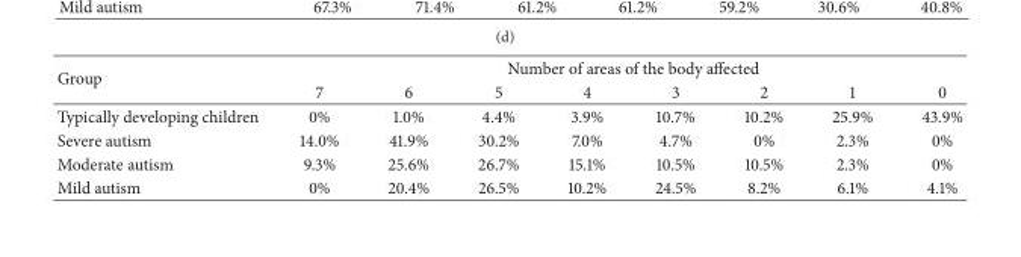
<table><thead><tr><td rowspan="2">Group</td><td colspan="8">Number of areas of the body affected</td></tr><tr><td>7</td><td>6</td><td>5</td><td>4</td><td>3</td><td>2</td><td>1</td><td>0</td></tr></thead><tbody><tr><td>Typically developing children</td><td>0%</td><td>1.0%</td><td>4.4%</td><td>3.9%</td><td>10.7%</td><td>10.2%</td><td>25.9%</td><td>43.9%</td></tr><tr><td>Severe autism</td><td>14.0%</td><td>41.9%</td><td>30.2%</td><td>7.0%</td><td>4.7%</td><td>0%</td><td>2.3%</td><td>0%</td></tr><tr><td>Moderate autism</td><td>9.3%</td><td>25.6%</td><td>26.7%</td><td>15.1%</td><td>10.5%</td><td>10.5%</td><td>2.3%</td><td>0%</td></tr><tr><td>Mild autism</td><td>0%</td><td>20.4%</td><td>26.5%</td><td>10.2%</td><td>24.5%</td><td>8.2%</td><td>6.1%</td><td>4.1%</td></tr></tbody></table>